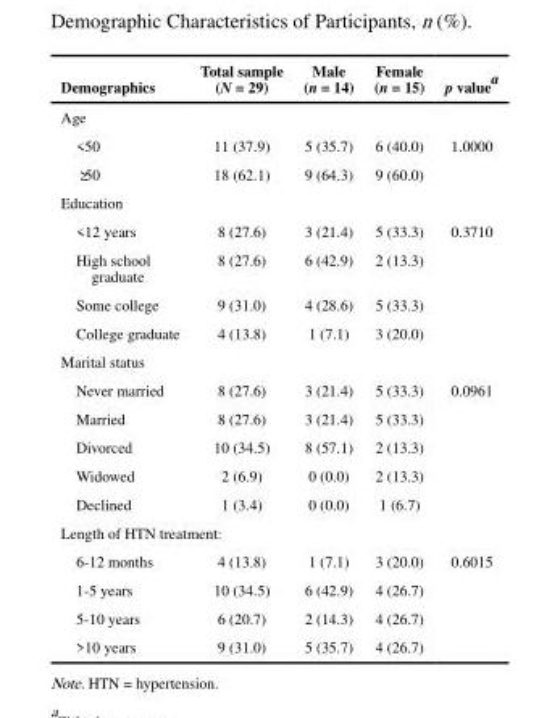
<table><thead><tr><td>Demographics</td><td>Total sample (N = 29)</td><td>Male (n = 14)</td><td>Female (n = 15)</td><td>p value<sup>a</sup></td></tr></thead><tbody><tr><td colspan="5">Age</td></tr><tr><td>&lt;50</td><td>11 (37.9)</td><td>5 (35.7)</td><td>6 (40.0)</td><td>1.0000</td></tr><tr><td>≥50</td><td>18 (62.1)</td><td>9 (64.3)</td><td>9 (60.0)</td><td></td></tr><tr><td colspan="5">Education</td></tr><tr><td>&lt;12 years</td><td>8 (27.6)</td><td>3 (21.4)</td><td>5 (33.3)</td><td>0.3710</td></tr><tr><td>High school graduate</td><td>8 (27.6)</td><td>6 (42.9)</td><td>2 (13.3)</td><td></td></tr><tr><td>Some college</td><td>9 (31.0)</td><td>4 (28.6)</td><td>5 (33.3)</td><td></td></tr><tr><td>College graduate</td><td>4 (13.8)</td><td>1 (7.1)</td><td>3 (20.0)</td><td></td></tr><tr><td colspan="5">Marital status</td></tr><tr><td>Never married</td><td>8 (27.6)</td><td>3 (21.4)</td><td>5 (33.3)</td><td>0.0961</td></tr><tr><td>Married</td><td>8 (27.6)</td><td>3 (21.4)</td><td>5 (33.3)</td><td></td></tr><tr><td>Divorced</td><td>10 (34.5)</td><td>8 (57.1)</td><td>2 (13.3)</td><td></td></tr><tr><td>Widowed</td><td>2 (6.9)</td><td>0 (0.0)</td><td>2 (13.3)</td><td></td></tr><tr><td>Declined</td><td>1 (3.4)</td><td>0 (0.0)</td><td>1 (6.7)</td><td></td></tr><tr><td colspan="5">Length of HTN treatment:</td></tr><tr><td>6-12 months</td><td>4 (13.8)</td><td>1 (7.1)</td><td>3 (20.0)</td><td>0.6015</td></tr><tr><td>1-5 years</td><td>10 (34.5)</td><td>6 (42.9)</td><td>4 (26.7)</td><td></td></tr><tr><td>5-10 years</td><td>6 (20.7)</td><td>2 (14.3)</td><td>4 (26.7)</td><td></td></tr><tr><td>&gt;10 years</td><td>9 (31.0)</td><td>5 (35.7)</td><td>4 (26.7)</td><td></td></tr></tbody></table>